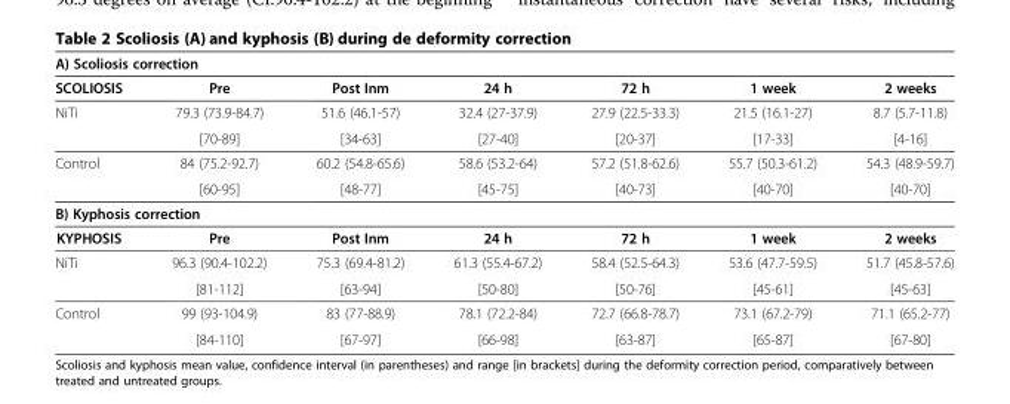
<table><tbody><tr><td colspan="7">A) Scoliosis correction</td></tr><tr><td>SCOLIOSIS</td><td>Pre</td><td>Post Inm</td><td>24 h</td><td>72 h</td><td>1 week</td><td>2 weeks</td></tr><tr><td rowspan="2">NiTi</td><td>79.3 (73.9-84.7)</td><td>51.6 (46.1-57)</td><td>32.4 (27-37.9)</td><td>27.9 (22.5-33.3)</td><td>21.5 (16.1-27)</td><td>8.7 (5.7-11.8)</td></tr><tr><td>[70-89]</td><td>[34-63]</td><td>[27-40]</td><td>[20-37]</td><td>[17-33]</td><td>[4-16]</td></tr><tr><td rowspan="2">Control</td><td>84 (75.2-92.7)</td><td>60.2 (54.8-65.6)</td><td>58.6 (53.2-64)</td><td>57.2 (51.8-62.6)</td><td>55.7 (50.3-61.2)</td><td>54.3 (48.9-59.7)</td></tr><tr><td>[60-95]</td><td>[48-77]</td><td>[45-75]</td><td>[40-73]</td><td>[40-70]</td><td>[40-70]</td></tr><tr><td colspan="7">B) Kyphosis correction</td></tr><tr><td>KYPHOSIS</td><td>Pre</td><td>Post Inm</td><td>24 h</td><td>72 h</td><td>1 week</td><td>2 weeks</td></tr><tr><td rowspan="2">NiTi</td><td>96.3 (90.4-102.2)</td><td>75.3 (69.4-81.2)</td><td>61.3 (55.4-67.2)</td><td>58.4 (52.5-64.3)</td><td>53.6 (47.7-59.5)</td><td>51.7 (45.8-57.6)</td></tr><tr><td>[81-112]</td><td>[63-94]</td><td>[50-80]</td><td>[50-76]</td><td>[45-61]</td><td>[45-63]</td></tr><tr><td rowspan="2">Control</td><td>99 (93-104.9)</td><td>83 (77-88.9)</td><td>78.1 (72.2-84)</td><td>72.7 (66.8-78.7)</td><td>73.1 (67.2-79)</td><td>71.1 (65.2-77)</td></tr><tr><td>[84-110]</td><td>[67-97]</td><td>[66-98]</td><td>[63-87]</td><td>[65-87]</td><td>[67-80]</td></tr></tbody></table>